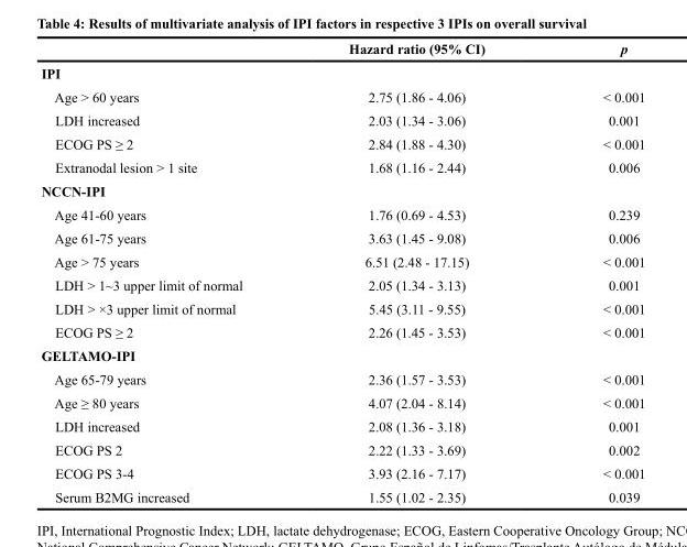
<table><thead><tr><td></td><td>Hazard ratio (95% CI)</td><td>p</td></tr></thead><tbody><tr><td colspan="3">IPI</td></tr><tr><td>Age &gt; 60 years</td><td>2.75 (1.86 - 4.06)</td><td>&lt; 0.001</td></tr><tr><td>LDH increased</td><td>2.03 (1.34 - 3.06)</td><td>0.001</td></tr><tr><td>ECOG PS ≥ 2</td><td>2.84 (1.88 - 4.30)</td><td>&lt; 0.001</td></tr><tr><td>Extranodal lesion &gt; 1 site</td><td>1.68 (1.16 - 2.44)</td><td>0.006</td></tr><tr><td colspan="3">NCCN-IPI</td></tr><tr><td>Age 41-60 years</td><td>1.76 (0.69 - 4.53)</td><td>0.239</td></tr><tr><td>Age 61-75 years</td><td>3.63 (1.45 - 9.08)</td><td>0.006</td></tr><tr><td>Age &gt; 75 years</td><td>6.51 (2.48 - 17.15)</td><td>&lt; 0.001</td></tr><tr><td>LDH &gt; 1~3 upper limit of normal</td><td>2.05 (1.34 - 3.13)</td><td>0.001</td></tr><tr><td>LDH &gt; ×3 upper limit of normal</td><td>5.45 (3.11 - 9.55)</td><td>&lt; 0.001</td></tr><tr><td>ECOG PS ≥ 2</td><td>2.26 (1.45 - 3.53)</td><td>&lt; 0.001</td></tr><tr><td colspan="3">GELTAMO-IPI</td></tr><tr><td>Age 65-79 years</td><td>2.36 (1.57 - 3.53)</td><td>&lt; 0.001</td></tr><tr><td>Age ≥ 80 years</td><td>4.07 (2.04 - 8.14)</td><td>&lt; 0.001</td></tr><tr><td>LDH increased</td><td>2.08 (1.36 - 3.18)</td><td>0.001</td></tr><tr><td>ECOG PS 2</td><td>2.22 (1.33 - 3.69)</td><td>0.002</td></tr><tr><td>ECOG PS 3-4</td><td>3.93 (2.16 - 7.17)</td><td>&lt; 0.001</td></tr><tr><td>Serum B2MG increased</td><td>1.55 (1.02 - 2.35)</td><td>0.039</td></tr></tbody></table>